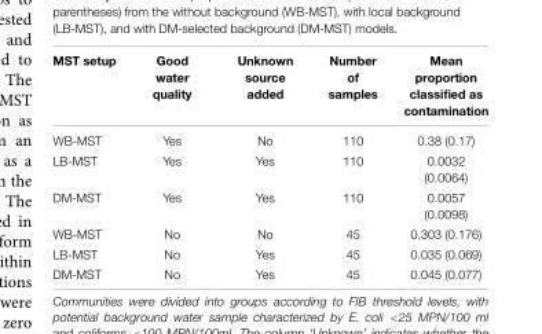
<table><thead><tr><td>MST setup</td><td>Good water quality</td><td>Unknown source added</td><td>Number of samples</td><td>Mean proportion classified as contamination</td></tr></thead><tbody><tr><td>WB-MST</td><td>Yes</td><td>No</td><td>110</td><td>0.38 (0.17)</td></tr><tr><td>LB-MST</td><td>Yes</td><td>Yes</td><td>110</td><td>0.0032 (0.0064)</td></tr><tr><td>DM-MST</td><td>Yes</td><td>Yes</td><td>110</td><td>0.0057 (0.0098)</td></tr><tr><td>WB-MST</td><td>No</td><td>No</td><td>45</td><td>0.303 (0.176)</td></tr><tr><td>LB-MST</td><td>No</td><td>Yes</td><td>45</td><td>0.035 (0.069)</td></tr><tr><td>DM-MST</td><td>No</td><td>Yes</td><td>45</td><td>0.045 (0.077)</td></tr></tbody></table>